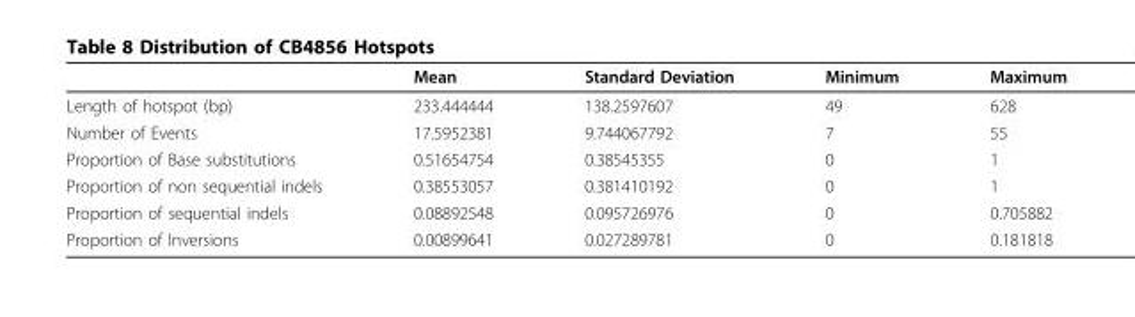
<table><thead><tr><td></td><td>Mean</td><td>Standard Deviation</td><td>Minimum</td><td>Maximum</td></tr></thead><tbody><tr><td>Length of hotspot (bp)</td><td>233.444444</td><td>138.2597607</td><td>49</td><td>628</td></tr><tr><td>Number of Events</td><td>17.5952381</td><td>9.744067792</td><td>7</td><td>55</td></tr><tr><td>Proportion of Base substitutions</td><td>0.51654754</td><td>0.38545355</td><td>0</td><td>1</td></tr><tr><td>Proportion of non sequential indels</td><td>0.38553057</td><td>0.381410192</td><td>0</td><td>1</td></tr><tr><td>Proportion of sequential indels</td><td>0.08892548</td><td>0.095726976</td><td>0</td><td>0.705882</td></tr><tr><td>Proportion of Inversions</td><td>0.00899641</td><td>0.027289781</td><td>0</td><td>0.181818</td></tr></tbody></table>